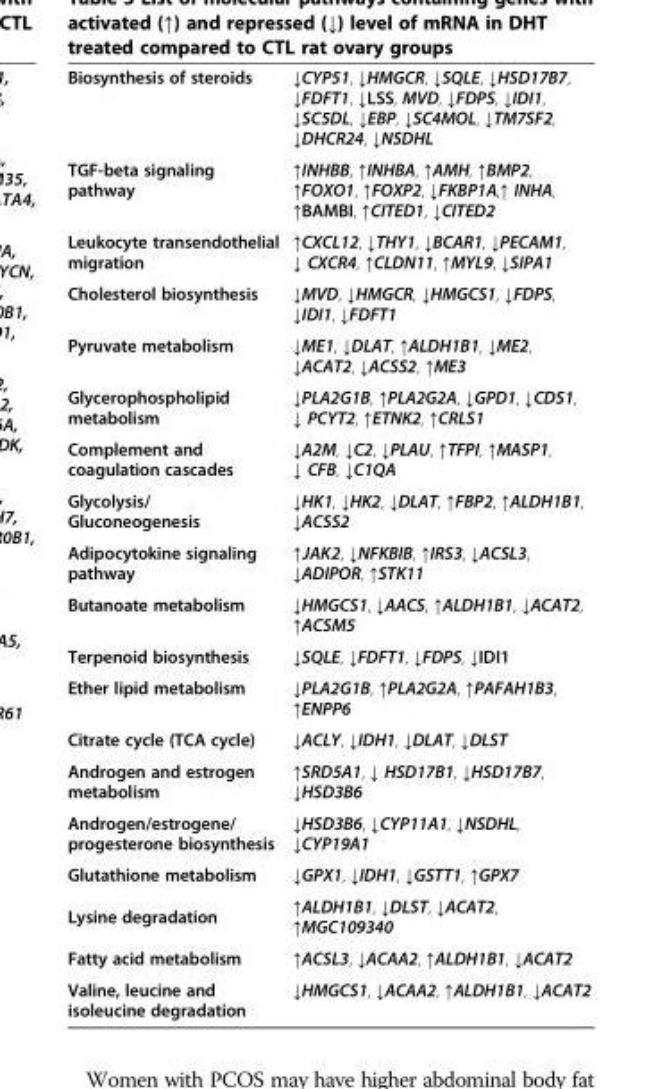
<table><tbody><tr><td>Biosynthesis of steroids</td><td>↓CYP51, ↓HMGCR, ↓SQLE, ↓HSD17B7, ↓FDFT1, ↓LSS, MVD, ↓FDPS, ↓IDI1, ↓SC5DL, ↓EBP, ↓SC4MOL, ↓TM7SF2, ↓DHCR24, ↓NSDHL</td></tr><tr><td>TGF-beta signaling pathway</td><td>↑INHBB, ↑INHBA, ↑AMH, ↑BMP2, ↑FOXO1, ↑FOXP2, ↓FKBP1A,↑ INHA, ↑BAMBI, ↑CITED1, ↓CITED2</td></tr><tr><td>Leukocyte transendothelial migration</td><td>↑CXCL12, ↓THY1, ↓BCAR1, ↓PECAM1, ↓ CXCR4, ↑CLDN11, ↑MYL9, ↓SIPA1</td></tr><tr><td>Cholesterol biosynthesis</td><td>↓MVD, ↓HMGCR, ↓HMGCS1, ↓FDPS, ↓IDI1, ↓FDFT1</td></tr><tr><td>Pyruvate metabolism</td><td>↓ME1, ↓DLAT, ↑ALDH1B1, ↓ME2, ↓ACAT2, ↓ACSS2, ↑ME3</td></tr><tr><td>Glycerophospholipid metabolism</td><td>↓PLA2G1B, ↑PLA2G2A, ↓GPD1, ↓CDS1, ↓ PCYT2, ↑ETNK2, ↑CRLS1</td></tr><tr><td>Complement and coagulation cascades</td><td>↓A2M, ↓C2, ↓PLAU, ↑TFPI, ↑MASP1, ↓ CFB, ↓C1QA</td></tr><tr><td>Glycolysis/ Gluconeogenesis</td><td>↓HK1, ↓HK2, ↓DLAT, ↑FBP2, ↑ALDH1B1, ↓ACSS2</td></tr><tr><td>Adipocytokine signaling pathway</td><td>↑JAK2, ↓NFKBIB, ↑IRS3, ↓ACSL3, ↓ADIPOR, ↑STK11</td></tr><tr><td>Butanoate metabolism</td><td>↓HMGCS1, ↓AACS, ↑ALDH1B1, ↓ACAT2, ↑ACSM5</td></tr><tr><td>Terpenoid biosynthesis</td><td>↓SQLE, ↓FDFT1, ↓FDPS, ↓IDI1</td></tr><tr><td>Ether lipid metabolism</td><td>↓PLA2G1B, ↑PLA2G2A, ↑PAFAH1B3, ↑ENPP6</td></tr><tr><td>Citrate cycle (TCA cycle)</td><td>↓ACLY, ↓IDH1, ↓DLAT, ↓DLST</td></tr><tr><td>Androgen and estrogen metabolism</td><td>↑SRD5A1, ↓ HSD17B1, ↓HSD17B7, ↓HSD3B6</td></tr><tr><td>Androgen/estrogene/ progesterone biosynthesis</td><td>↓HSD3B6, ↓CYP11A1, ↓NSDHL, ↓CYP19A1</td></tr><tr><td>Glutathione metabolism</td><td>↓GPX1, ↓IDH1, ↓GSTT1, ↑GPX7</td></tr><tr><td>Lysine degradation</td><td>↑ALDH1B1, ↓DLST, ↓ACAT2, ↑MGC109340</td></tr><tr><td>Fatty acid metabolism</td><td>↑ACSL3, ↓ACAA2, ↑ALDH1B1, ↓ACAT2</td></tr><tr><td>Valine, leucine and isoleucine degradation</td><td>↓HMGCS1, ↓ACAA2, ↑ALDH1B1, ↓ACAT2</td></tr></tbody></table>